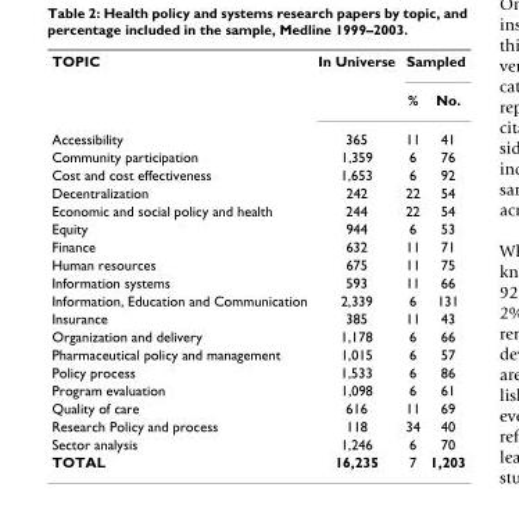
<table><tbody><tr><td rowspan="2">TOPIC</td><td>In Universe</td><td colspan="2">Sampled</td></tr><tr><td></td><td>%</td><td>No.</td></tr><tr><td>Accessibility</td><td>365</td><td>11</td><td>41</td></tr><tr><td>Community participation</td><td>1,359</td><td>6</td><td>76</td></tr><tr><td>Cost and cost effectiveness</td><td>1,653</td><td>6</td><td>92</td></tr><tr><td>Decentralization</td><td>242</td><td>22</td><td>54</td></tr><tr><td>Economic and social policy and health</td><td>244</td><td>22</td><td>54</td></tr><tr><td>Equity</td><td>944</td><td>6</td><td>53</td></tr><tr><td>Finance</td><td>632</td><td>11</td><td>71</td></tr><tr><td>Human resources</td><td>675</td><td>11</td><td>75</td></tr><tr><td>Information systems</td><td>593</td><td>11</td><td>66</td></tr><tr><td>Information, Education and Communication</td><td>2,339</td><td>6</td><td>131</td></tr><tr><td>Insurance</td><td>385</td><td>11</td><td>43</td></tr><tr><td>Organization and delivery</td><td>1,178</td><td>6</td><td>66</td></tr><tr><td>Pharmaceutical policy and management</td><td>1,015</td><td>6</td><td>57</td></tr><tr><td>Policy process</td><td>1,533</td><td>6</td><td>86</td></tr><tr><td>Program evaluation</td><td>1,098</td><td>6</td><td>61</td></tr><tr><td>Quality of care</td><td>616</td><td>11</td><td>69</td></tr><tr><td>Research Policy and process</td><td>118</td><td>34</td><td>40</td></tr><tr><td>Sector analysis</td><td>1,246</td><td>6</td><td>70</td></tr><tr><td>TOTAL</td><td>16,235</td><td>7</td><td>1,203</td></tr></tbody></table>